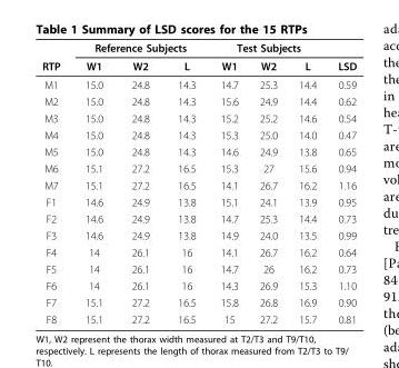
<table><thead><tr><td rowspan="2">RTP</td><td colspan="3">Reference Subjects</td><td colspan="3">Test Subjects</td><td rowspan="2">LSD</td></tr><tr><td>W1</td><td>W2</td><td>L</td><td>W1</td><td>W2</td><td>L</td></tr></thead><tbody><tr><td>M1</td><td>15.0</td><td>24.8</td><td>14.3</td><td>14.7</td><td>25.3</td><td>14.4</td><td>0.59</td></tr><tr><td>M2</td><td>15.0</td><td>24.8</td><td>14.3</td><td>15.6</td><td>24.9</td><td>14.4</td><td>0.62</td></tr><tr><td>M3</td><td>15.0</td><td>24.8</td><td>14.3</td><td>15.2</td><td>25.2</td><td>14.6</td><td>0.54</td></tr><tr><td>M4</td><td>15.0</td><td>24.8</td><td>14.3</td><td>15.3</td><td>25.0</td><td>14.0</td><td>0.47</td></tr><tr><td>M5</td><td>15.0</td><td>24.8</td><td>14.3</td><td>14.6</td><td>24.9</td><td>13.8</td><td>0.65</td></tr><tr><td>M6</td><td>15.1</td><td>27.2</td><td>16.5</td><td>15.3</td><td>27</td><td>15.6</td><td>0.94</td></tr><tr><td>M7</td><td>15.1</td><td>27.2</td><td>16.5</td><td>14.1</td><td>26.7</td><td>16.2</td><td>1.16</td></tr><tr><td>F1</td><td>14.6</td><td>24.9</td><td>13.8</td><td>15.1</td><td>24.1</td><td>13.9</td><td>0.95</td></tr><tr><td>F2</td><td>14.6</td><td>24.9</td><td>13.8</td><td>14.7</td><td>25.3</td><td>14.4</td><td>0.73</td></tr><tr><td>F3</td><td>14.6</td><td>24.9</td><td>13.8</td><td>14.9</td><td>24.0</td><td>13.5</td><td>0.99</td></tr><tr><td>F4</td><td>14</td><td>26.1</td><td>16</td><td>14.1</td><td>26.7</td><td>16.2</td><td>0.64</td></tr><tr><td>F5</td><td>14</td><td>26.1</td><td>16</td><td>14.7</td><td>26</td><td>16.2</td><td>0.73</td></tr><tr><td>F6</td><td>14</td><td>26.1</td><td>16</td><td>14.3</td><td>26.9</td><td>15.3</td><td>1.10</td></tr><tr><td>F7</td><td>15.1</td><td>27.2</td><td>16.5</td><td>15.8</td><td>26.8</td><td>16.9</td><td>0.90</td></tr><tr><td>F8</td><td>15.1</td><td>27.2</td><td>16.5</td><td>15</td><td>27.2</td><td>15.7</td><td>0.81</td></tr></tbody></table>